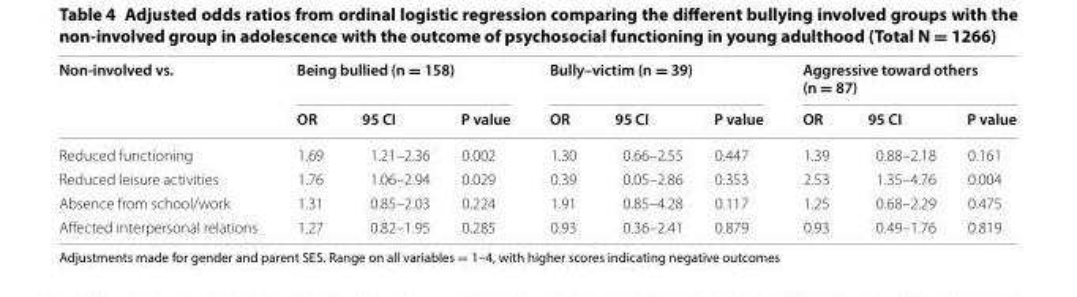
<table><thead><tr><td rowspan="2">Non-involved vs.</td><td colspan="3">Being bullied (n = 158)</td><td colspan="3">Bully–victim (n = 39)</td><td colspan="3">Aggressive toward others (n = 87)</td></tr><tr><td>OR</td><td>95 CI</td><td>P value</td><td>OR</td><td>95 CI</td><td>P value</td><td>OR</td><td>95 CI</td><td>P value</td></tr></thead><tbody><tr><td>Reduced functioning</td><td>1.69</td><td>1.21–2.36</td><td>0.002</td><td>1.30</td><td>0.66–2.55</td><td>0.447</td><td>1.39</td><td>0.88–2.18</td><td>0.161</td></tr><tr><td>Reduced leisure activities</td><td>1.76</td><td>1.06–2.94</td><td>0.029</td><td>0.39</td><td>0.05–2.86</td><td>0.353</td><td>2.53</td><td>1.35–4.76</td><td>0.004</td></tr><tr><td>Absence from school/work</td><td>1.31</td><td>0.85–2.03</td><td>0.224</td><td>1.91</td><td>0.85–4.28</td><td>0.117</td><td>1.25</td><td>0.68–2.29</td><td>0.475</td></tr><tr><td>Affected interpersonal relations</td><td>1.27</td><td>0.82–1.95</td><td>0.285</td><td>0.93</td><td>0.36–2.41</td><td>0.879</td><td>0.93</td><td>0.49–1.76</td><td>0.819</td></tr></tbody></table>